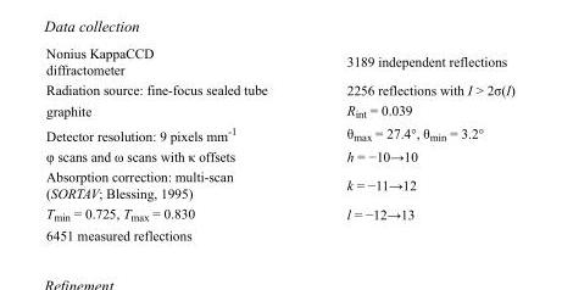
<table><tbody><tr><td>Nonius KappaCCD diffractometer</td><td>3189 independent reflections</td></tr><tr><td>Radiation source: fine-focus sealed tube</td><td>2256 reflections with I &gt; 2σ(I)</td></tr><tr><td>graphite</td><td>R<sub>int</sub> = 0.039</td></tr><tr><td>Detector resolution: 9 pixels mm<sup>-1</sup></td><td>θ<sub>max</sub> = 27.4°, θ<sub>min</sub> = 3.2°</td></tr><tr><td>φ scans and ω scans with κ offsets</td><td>h = −10→10</td></tr><tr><td>Absorption correction: multi-scan (SORTAV; Blessing, 1995)</td><td>k = −11→12</td></tr><tr><td>T<sub>min</sub> = 0.725, T<sub>max</sub> = 0.830</td><td>l = −12→13</td></tr><tr><td>6451 measured reflections</td><td></td></tr></tbody></table>